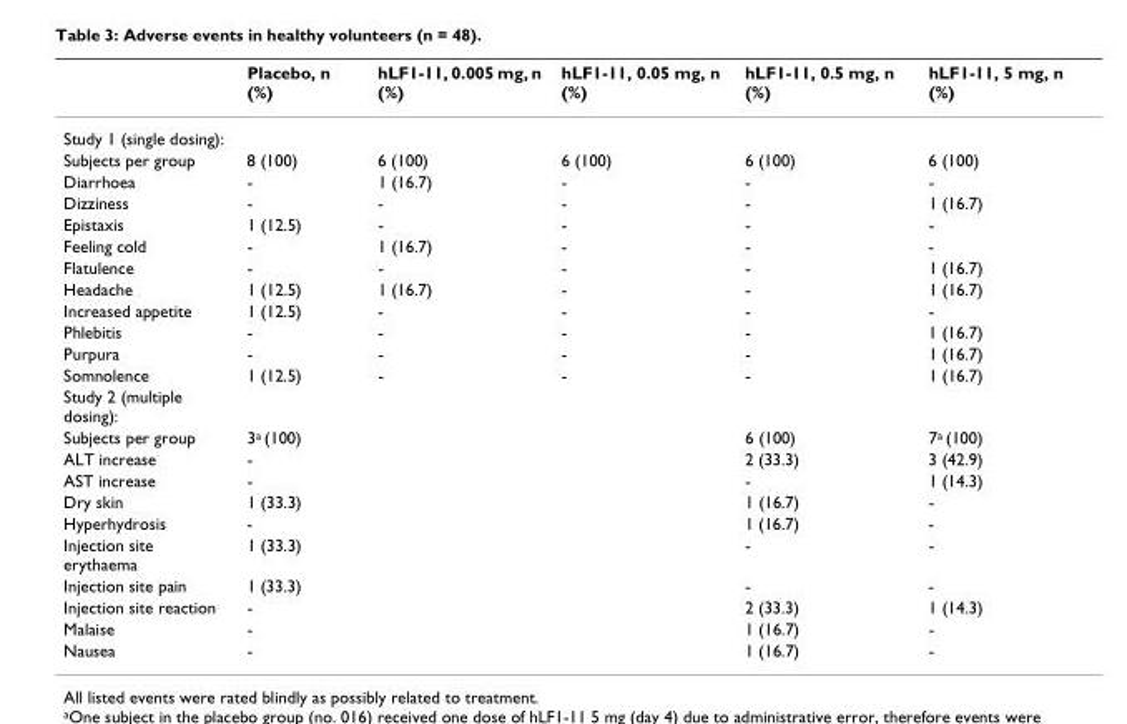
<table><thead><tr><td></td><td>Placebo, n (%)</td><td>hLF1-11, 0.005 mg, n (%)</td><td>hLF1-11, 0.05 mg, n (%)</td><td>hLF1-11, 0.5 mg, n (%)</td><td>hLF1-11, 5 mg, n (%)</td></tr></thead><tbody><tr><td colspan="6">Study 1 (single dosing):</td></tr><tr><td>Subjects per group</td><td>8 (100)</td><td>6 (100)</td><td>6 (100)</td><td>6 (100)</td><td>6 (100)</td></tr><tr><td>Diarrhoea</td><td>-</td><td>1 (16.7)</td><td>-</td><td>-</td><td>-</td></tr><tr><td>Dizziness</td><td>-</td><td>-</td><td>-</td><td>-</td><td>1 (16.7)</td></tr><tr><td>Epistaxis</td><td>1 (12.5)</td><td>-</td><td>-</td><td>-</td><td>-</td></tr><tr><td>Feeling cold</td><td>-</td><td>1 (16.7)</td><td>-</td><td>-</td><td>-</td></tr><tr><td>Flatulence</td><td>-</td><td>-</td><td>-</td><td>-</td><td>1 (16.7)</td></tr><tr><td>Headache</td><td>1 (12.5)</td><td>1 (16.7)</td><td>-</td><td>-</td><td>1 (16.7)</td></tr><tr><td>Increased appetite</td><td>1 (12.5)</td><td>-</td><td>-</td><td>-</td><td>-</td></tr><tr><td>Phlebitis</td><td>-</td><td>-</td><td>-</td><td>-</td><td>1 (16.7)</td></tr><tr><td>Purpura</td><td>-</td><td>-</td><td>-</td><td>-</td><td>1 (16.7)</td></tr><tr><td>Somnolence</td><td>1 (12.5)</td><td>-</td><td>-</td><td>-</td><td>1 (16.7)</td></tr><tr><td colspan="6">Study 2 (multiple dosing):</td></tr><tr><td>Subjects per group</td><td>3<sup>a</sup> (100)</td><td></td><td></td><td>6 (100)</td><td>7<sup>a</sup> (100)</td></tr><tr><td>ALT increase</td><td>-</td><td></td><td></td><td>2 (33.3)</td><td>3 (42.9)</td></tr><tr><td>AST increase</td><td>-</td><td></td><td></td><td>-</td><td>1 (14.3)</td></tr><tr><td>Dry skin</td><td>1 (33.3)</td><td></td><td></td><td>1 (16.7)</td><td>-</td></tr><tr><td>Hyperhydrosis</td><td>-</td><td></td><td></td><td>1 (16.7)</td><td>-</td></tr><tr><td>Injection site erythaema</td><td>1 (33.3)</td><td></td><td></td><td>-</td><td>-</td></tr><tr><td>Injection site pain</td><td>1 (33.3)</td><td></td><td></td><td>-</td><td>-</td></tr><tr><td>Injection site reaction</td><td>-</td><td></td><td></td><td>2 (33.3)</td><td>1 (14.3)</td></tr><tr><td>Malaise</td><td>-</td><td></td><td></td><td>1 (16.7)</td><td>-</td></tr><tr><td>Nausea</td><td>-</td><td></td><td></td><td>1 (16.7)</td><td>-</td></tr></tbody></table>